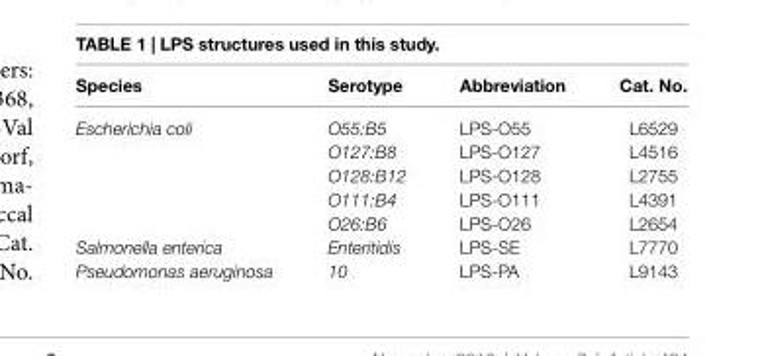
<table><thead><tr><td>species</td><td>serotype</td><td>abbreviation</td><td>cat. no.</td></tr></thead><tbody><tr><td rowspan="5">Escherichia coli</td><td>O55:B5</td><td>LPS-O55</td><td>L6529</td></tr><tr><td>O127:B8</td><td>LPS-O127</td><td>L4516</td></tr><tr><td>O128:B12</td><td>LPS-O128</td><td>L2755</td></tr><tr><td>O111:B4</td><td>LPS-O111</td><td>L4391</td></tr><tr><td>O26:B6</td><td>LPS-O26</td><td>L2654</td></tr><tr><td>Salmonella enterica</td><td>Enteritidis</td><td>LPS-SE</td><td>L7770</td></tr><tr><td>Pseudomonas aeruginosa</td><td>10</td><td>LPS-PA</td><td>L9143</td></tr></tbody></table>